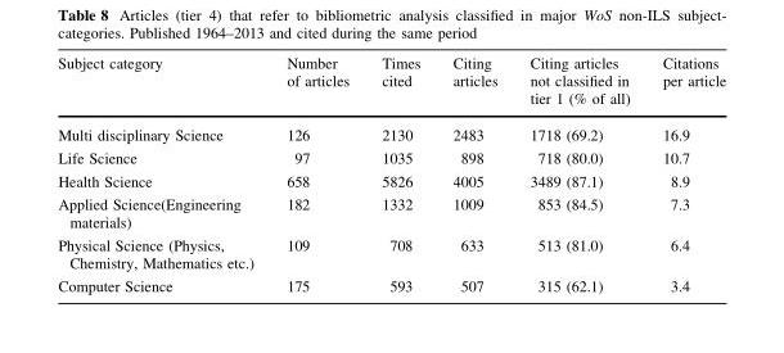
<table><thead><tr><td>Subject category</td><td>Number of articles</td><td>Times cited</td><td>Citing articles</td><td>Citing articles not classified in tier 1 (% of all)</td><td>Citations per article</td></tr></thead><tbody><tr><td>Multi disciplinary Science</td><td>126</td><td>2130</td><td>2483</td><td>1718 (69.2)</td><td>16.9</td></tr><tr><td>Life Science</td><td>97</td><td>1035</td><td>898</td><td>718 (80.0)</td><td>10.7</td></tr><tr><td>Health Science</td><td>658</td><td>5826</td><td>4005</td><td>3489 (87.1)</td><td>8.9</td></tr><tr><td>Applied Science(Engineering materials)</td><td>182</td><td>1332</td><td>1009</td><td>853 (84.5)</td><td>7.3</td></tr><tr><td>Physical Science (Physics, Chemistry, Mathematics etc.)</td><td>109</td><td>708</td><td>633</td><td>513 (81.0)</td><td>6.4</td></tr><tr><td>Computer Science</td><td>175</td><td>593</td><td>507</td><td>315 (62.1)</td><td>3.4</td></tr></tbody></table>